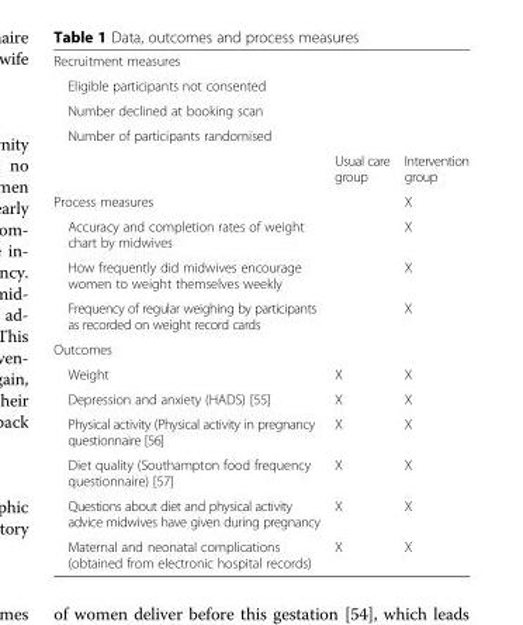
<table><tbody><tr><td>Recruitment measures</td><td rowspan="4" colspan="2"></td></tr><tr><td>Eligible participants not consented</td></tr><tr><td>Number declined at booking scan</td></tr><tr><td rowspan="2">Number of participants randomised</td></tr><tr><td>Usual care group</td><td>Intervention group</td></tr><tr><td>Process measures</td><td></td><td>X</td></tr><tr><td>Accuracy and completion rates of weight chart by midwives</td><td></td><td>X</td></tr><tr><td>How frequently did midwives encourage women to weight themselves weekly</td><td></td><td>X</td></tr><tr><td>Frequency of regular weighing by participants as recorded on weight record cards</td><td></td><td>X</td></tr><tr><td colspan="3">Outcomes</td></tr><tr><td>Weight</td><td>X</td><td>X</td></tr><tr><td>Depression and anxiety (HADS) [55]</td><td>X</td><td>X</td></tr><tr><td>Physical activity (Physical activity in pregnancy questionnaire [56]</td><td>X</td><td>X</td></tr><tr><td>Diet quality (Southampton food frequency questionnaire) [57]</td><td>X</td><td>X</td></tr><tr><td>Questions about diet and physical activity advice midwives have given during pregnancy</td><td>X</td><td>X</td></tr><tr><td>Maternal and neonatal complications (obtained from electronic hospital records)</td><td>X</td><td>X</td></tr></tbody></table>